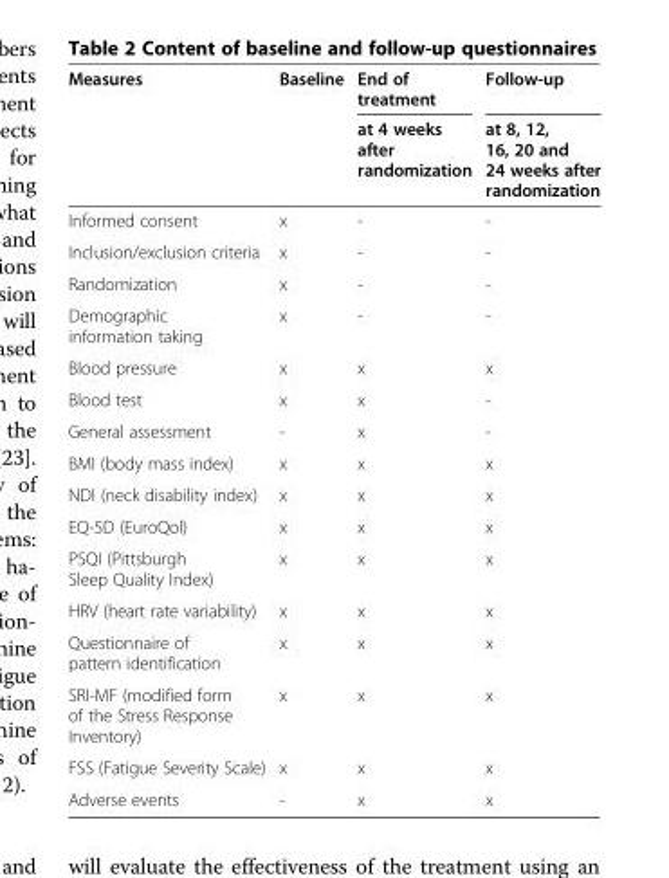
<table><thead><tr><td rowspan="2">Measures</td><td rowspan="2">Baseline</td><td rowspan="2">End of treatment at 4 weeks after randomization</td><td rowspan="2">Follow-up at 8, 12, 16, 20 and 24 weeks after randomization</td></tr><tr></tr></thead><tbody><tr><td>Informed consent</td><td>x</td><td>-</td><td>-</td></tr><tr><td>Inclusion/exclusion criteria</td><td>x</td><td>-</td><td>-</td></tr><tr><td>Randomization</td><td>x</td><td>-</td><td>-</td></tr><tr><td>Demographic information taking</td><td>x</td><td>-</td><td>-</td></tr><tr><td>Blood pressure</td><td>x</td><td>x</td><td>x</td></tr><tr><td>Blood test</td><td>x</td><td>x</td><td>-</td></tr><tr><td>General assessment</td><td>-</td><td>x</td><td>-</td></tr><tr><td>BMI (body mass index)</td><td>x</td><td>x</td><td>x</td></tr><tr><td>NDI (neck disability index)</td><td>x</td><td>x</td><td>x</td></tr><tr><td>EQ-5D (EuroQol)</td><td>x</td><td>x</td><td>x</td></tr><tr><td>PSQI (Pittsburgh Sleep Quality Index)</td><td>x</td><td>x</td><td>x</td></tr><tr><td>HRV (heart rate variability)</td><td>x</td><td>x</td><td>x</td></tr><tr><td>Questionnaire of pattern identification</td><td>x</td><td>x</td><td>x</td></tr><tr><td>SRI-MF (modified form of the Stress Response Inventory)</td><td>x</td><td>x</td><td>x</td></tr><tr><td>FSS (Fatigue Severity Scale)</td><td>x</td><td>x</td><td>x</td></tr><tr><td>Adverse events</td><td>-</td><td>x</td><td>x</td></tr></tbody></table>